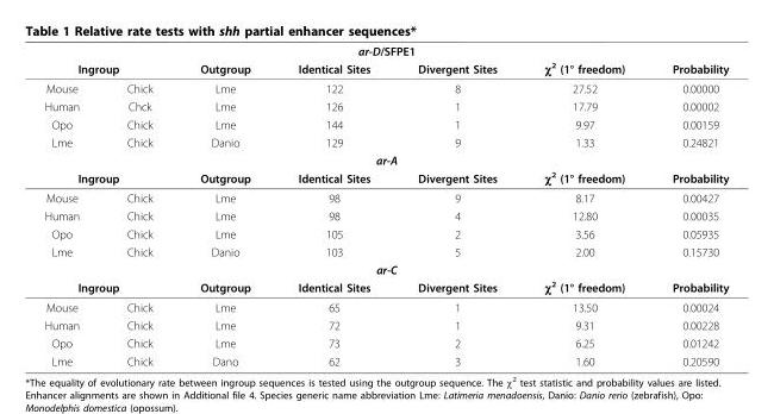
<table><thead><tr><td colspan="7">ar-D/SFPE1</td></tr><tr><td colspan="2">Ingroup</td><td rowspan="2">Outgroup Lme</td><td rowspan="2">Identical Sites 122</td><td rowspan="2">Divergent Sites 8</td><td rowspan="2">χ2 (1° freedom) 27.52</td><td rowspan="2">Probability 0.00000</td></tr><tr><td>Mouse</td><td>Chick</td></tr></thead><tbody><tr><td>Human</td><td>Chck</td><td>Lme</td><td>126</td><td>1</td><td>17.79</td><td>0.00002</td></tr><tr><td>Opo</td><td>Chick</td><td>Lme</td><td>144</td><td>1</td><td>9.97</td><td>0.00159</td></tr><tr><td>Lme</td><td>Chick</td><td>Danio</td><td>129</td><td>9</td><td>1.33</td><td>0.24821</td></tr><tr><td colspan="7">ar-A</td></tr><tr><td colspan="2">Ingroup</td><td>Outgroup</td><td>Identical Sites</td><td>Divergent Sites</td><td>χ2 (1° freedom)</td><td>Probability</td></tr><tr><td>Mouse</td><td>Chick</td><td>Lme</td><td>98</td><td>9</td><td>8.17</td><td>0.00427</td></tr><tr><td>Human</td><td>Chick</td><td>Lme</td><td>98</td><td>4</td><td>12.80</td><td>0.00035</td></tr><tr><td>Opo</td><td>Chick</td><td>Lme</td><td>105</td><td>2</td><td>3.56</td><td>0.05935</td></tr><tr><td>Lme</td><td>Chick</td><td>Danio</td><td>103</td><td>5</td><td>2.00</td><td>0.15730</td></tr><tr><td colspan="7">ar-C</td></tr><tr><td colspan="2">Ingroup</td><td>Outgroup</td><td>Identical Sites</td><td>Divergent Sites</td><td>χ2 (1° freedom)</td><td>Probability</td></tr><tr><td>Mouse</td><td>Chick</td><td>Lme</td><td>65</td><td>1</td><td>13.50</td><td>0.00024</td></tr><tr><td>Human</td><td>Chick</td><td>Lme</td><td>72</td><td>1</td><td>9.31</td><td>0.00228</td></tr><tr><td>Opo</td><td>Chick</td><td>Lme</td><td>73</td><td>2</td><td>6.25</td><td>0.01242</td></tr><tr><td>Lme</td><td>Chick</td><td>Dano</td><td>62</td><td>3</td><td>1.60</td><td>0.20590</td></tr></tbody></table>